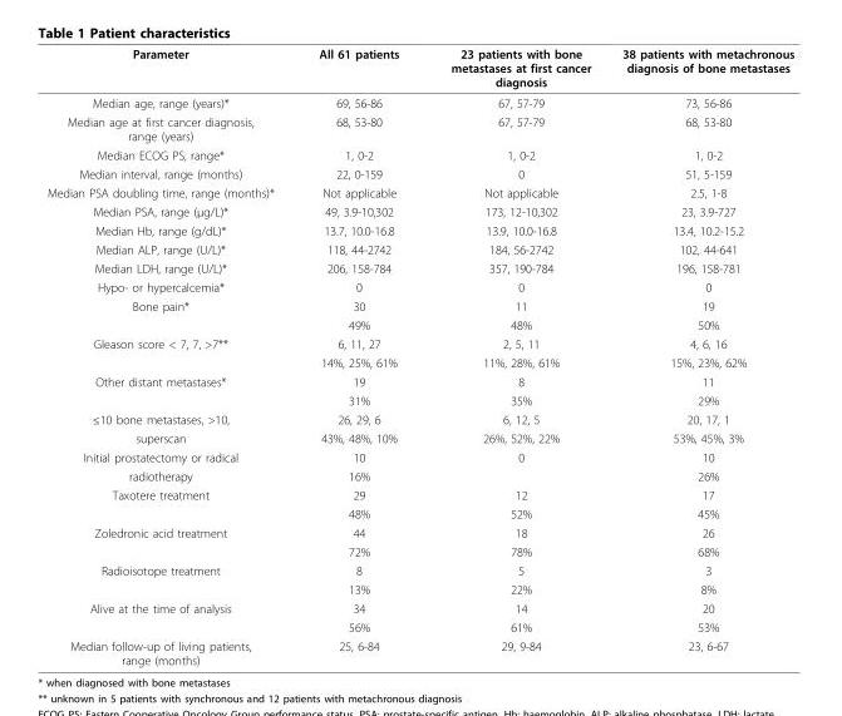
<table><thead><tr><td>Parameter</td><td>All 61 patients</td><td>23 patients with bone metastases at first cancer diagnosis</td><td>38 patients with metachronous diagnosis of bone metastases</td></tr></thead><tbody><tr><td>Median age, range (years)*</td><td>69, 56-86</td><td>67, 57-79</td><td>73, 56-86</td></tr><tr><td>Median age at first cancer diagnosis, range (years)</td><td>68, 53-80</td><td>67, 57-79</td><td>68, 53-80</td></tr><tr><td>Median ECOG PS, range*</td><td>1, 0-2</td><td>1, 0-2</td><td>1, 0-2</td></tr><tr><td>Median interval, range (months)</td><td>22, 0-159</td><td>0</td><td>51, 5-159</td></tr><tr><td>Median PSA doubling time, range (months)*</td><td>Not applicable</td><td>Not applicable</td><td>2.5, 1-8</td></tr><tr><td>Median PSA, range (μg/L)*</td><td>49, 3.9-10,302</td><td>173, 12-10,302</td><td>23, 3.9-727</td></tr><tr><td>Median Hb, range (g/dL)*</td><td>13.7, 10.0-16.8</td><td>13.9, 10.0-16.8</td><td>13.4, 10.2-15.2</td></tr><tr><td>Median ALP, range (U/L)*</td><td>118, 44-2742</td><td>184, 56-2742</td><td>102, 44-641</td></tr><tr><td>Median LDH, range (U/L)*</td><td>206, 158-784</td><td>357, 190-784</td><td>196, 158-781</td></tr><tr><td>Hypo- or hypercalcemia*</td><td>0</td><td>0</td><td>0</td></tr><tr><td rowspan="2">Bone pain*</td><td>30</td><td>11</td><td>19</td></tr><tr><td>49%</td><td>48%</td><td>50%</td></tr><tr><td rowspan="2">Gleason score &lt; 7, 7, &gt;7**</td><td>6, 11, 27</td><td>2, 5, 11</td><td>4, 6, 16</td></tr><tr><td>14%, 25%, 61%</td><td>11%, 28%, 61%</td><td>15%, 23%, 62%</td></tr><tr><td rowspan="2">Other distant metastases*</td><td>19</td><td>8</td><td>11</td></tr><tr><td>31%</td><td>35%</td><td>29%</td></tr><tr><td>≤10 bone metastases, &gt;10,</td><td>26, 29, 6</td><td>6, 12, 5</td><td>20, 17, 1</td></tr><tr><td>superscan</td><td>43%, 48%, 10%</td><td>26%, 52%, 22%</td><td>53%, 45%, 3%</td></tr><tr><td>Initial prostatectomy or radical</td><td>10</td><td>0</td><td>10</td></tr><tr><td>radiotherapy</td><td>16%</td><td></td><td>26%</td></tr><tr><td rowspan="2">Taxotere treatment</td><td>29</td><td>12</td><td>17</td></tr><tr><td>48%</td><td>52%</td><td>45%</td></tr><tr><td rowspan="2">Zoledronic acid treatment</td><td>44</td><td>18</td><td>26</td></tr><tr><td>72%</td><td>78%</td><td>68%</td></tr><tr><td rowspan="2">Radioisotope treatment</td><td>8</td><td>5</td><td>3</td></tr><tr><td>13%</td><td>22%</td><td>8%</td></tr><tr><td rowspan="2">Alive at the time of analysis</td><td>34</td><td>14</td><td>20</td></tr><tr><td>56%</td><td>61%</td><td>53%</td></tr><tr><td>Median follow-up of living patients, range (months)</td><td>25, 6-84</td><td>29, 9-84</td><td>23, 6-67</td></tr></tbody></table>